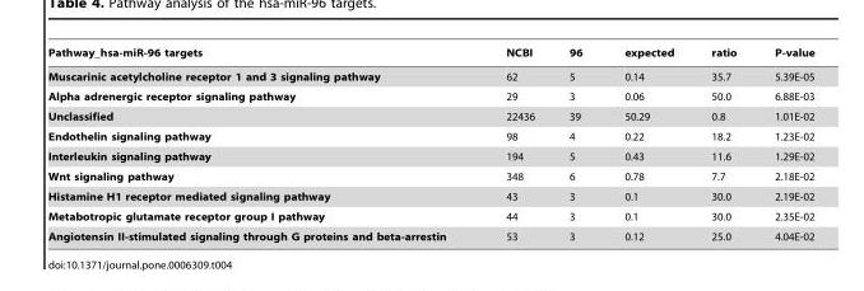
<table><thead><tr><td>Pathway_hsa-miR-96 targets</td><td>NCBI</td><td>96</td><td>expected</td><td>ratio</td><td>P-value</td></tr></thead><tbody><tr><td>Muscarinic acetylcholine receptor 1 and 3 signaling pathway</td><td>62</td><td>5</td><td>0.14</td><td>35.7</td><td>5.39E-05</td></tr><tr><td>Alpha adrenergic receptor signaling pathway</td><td>29</td><td>3</td><td>0.06</td><td>50.0</td><td>6.88E-03</td></tr><tr><td>Unclassified</td><td>22436</td><td>39</td><td>50.29</td><td>0.8</td><td>1.01E-02</td></tr><tr><td>Endothelin signaling pathway</td><td>98</td><td>4</td><td>0.22</td><td>18.2</td><td>1.23E-02</td></tr><tr><td>Interleukin signaling pathway</td><td>194</td><td>5</td><td>0.43</td><td>11.6</td><td>1.29E-02</td></tr><tr><td>Wnt signaling pathway</td><td>348</td><td>6</td><td>0.78</td><td>7.7</td><td>2.18E-02</td></tr><tr><td>Histamine H1 receptor mediated signaling pathway</td><td>43</td><td>3</td><td>0.1</td><td>30.0</td><td>2.19E-02</td></tr><tr><td>Metabotropic glutamate receptor group I pathway</td><td>44</td><td>3</td><td>0.1</td><td>30.0</td><td>2.35E-02</td></tr><tr><td>Angiotensin II-stimulated signaling through G proteins and beta-arrestin</td><td>53</td><td>3</td><td>0.12</td><td>25.0</td><td>4.04E-02</td></tr></tbody></table>